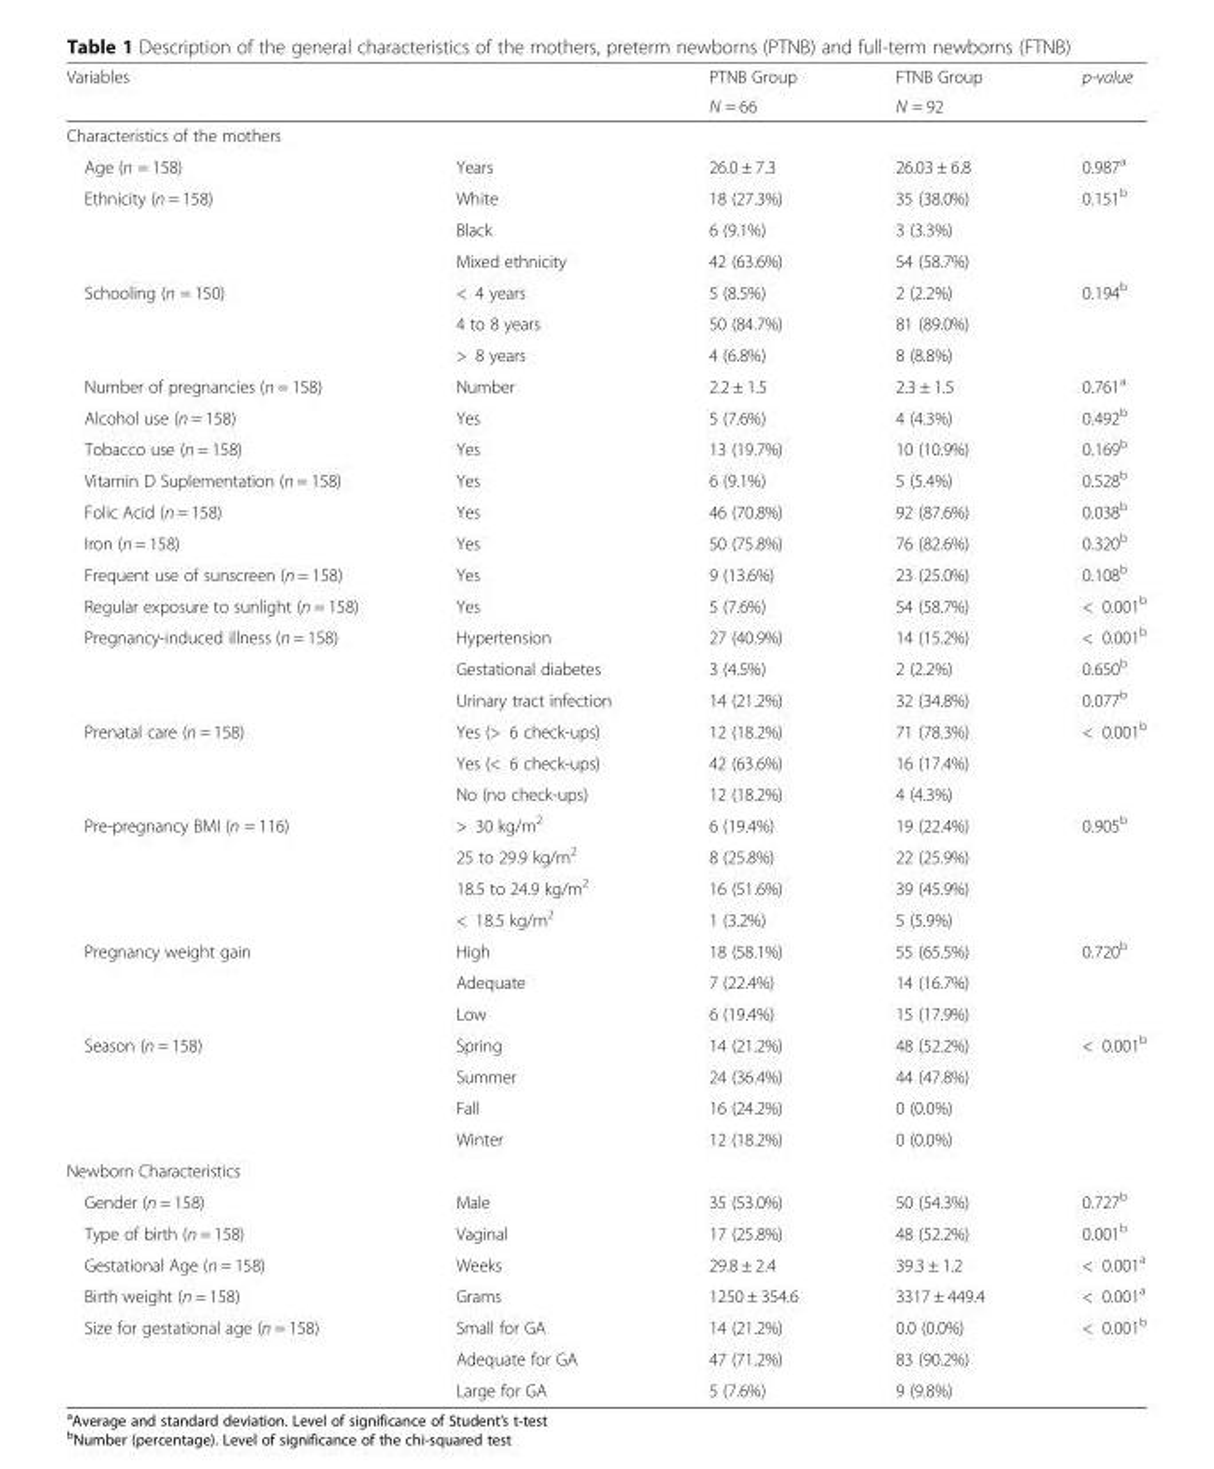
<table><thead><tr><td rowspan="2" colspan="2">Variables</td><td rowspan="2">PTNB Group N = 66</td><td rowspan="2">FTNB Group N = 92</td><td rowspan="2">p-value</td></tr><tr></tr><tr><td colspan="5">Characteristics of the mothers</td></tr><tr><td>Age (n = 158)</td><td>Years</td><td>26.0 ± 7.3</td><td>26.03 ± 6.8</td><td>0.987<sup>a</sup></td></tr></thead><tbody><tr><td rowspan="3">Ethnicity (n = 158)</td><td>White</td><td>18 (27.3%)</td><td>35 (38.0%)</td><td>0.151<sup>b</sup></td></tr><tr><td>Black</td><td>6 (9.1%)</td><td>3 (3.3%)</td><td></td></tr><tr><td>Mixed ethnicity</td><td>42 (63.6%)</td><td>54 (58.7%)</td><td></td></tr><tr><td rowspan="3">Schooling (n = 150)</td><td>&lt; 4 years</td><td>5 (8.5%)</td><td>2 (2.2%)</td><td>0.194<sup>b</sup></td></tr><tr><td>4 to 8 years</td><td>50 (84.7%)</td><td>81 (89.0%)</td><td></td></tr><tr><td>&gt; 8 years</td><td>4 (6.8%)</td><td>8 (8.8%)</td><td></td></tr><tr><td>Number of pregnancies (n = 158)</td><td>Number</td><td>2.2 ± 1.5</td><td>2.3 ± 1.5</td><td>0.761<sup>a</sup></td></tr><tr><td>Alcohol use (n = 158)</td><td>Yes</td><td>5 (7.6%)</td><td>4 (4.3%)</td><td>0.492<sup>b</sup></td></tr><tr><td>Tobacco use (n = 158)</td><td>Yes</td><td>13 (19.7%)</td><td>10 (10.9%)</td><td>0.169<sup>b</sup></td></tr><tr><td>Vitamin D Suplementation (n = 158)</td><td>Yes</td><td>6 (9.1%)</td><td>5 (5.4%)</td><td>0.528<sup>b</sup></td></tr><tr><td>Folic Acid (n = 158)</td><td>Yes</td><td>46 (70.8%)</td><td>92 (87.6%)</td><td>0.038<sup>b</sup></td></tr><tr><td>Iron (n = 158)</td><td>Yes</td><td>50 (75.8%)</td><td>76 (82.6%)</td><td>0.320<sup>b</sup></td></tr><tr><td>Frequent use of sunscreen (n = 158)</td><td>Yes</td><td>9 (13.6%)</td><td>23 (25.0%)</td><td>0.108<sup>b</sup></td></tr><tr><td>Regular exposure to sunlight (n = 158)</td><td>Yes</td><td>5 (7.6%)</td><td>54 (58.7%)</td><td>&lt; 0.001<sup>b</sup></td></tr><tr><td rowspan="3">Pregnancy-induced illness (n = 158)</td><td>Hypertension</td><td>27 (40.9%)</td><td>14 (15.2%)</td><td>&lt; 0.001<sup>b</sup></td></tr><tr><td>Gestational diabetes</td><td>3 (4.5%)</td><td>2 (2.2%)</td><td>0.650<sup>b</sup></td></tr><tr><td>Urinary tract infection</td><td>14 (21.2%)</td><td>32 (34.8%)</td><td>0.077<sup>b</sup></td></tr><tr><td rowspan="3">Prenatal care (n = 158)</td><td>Yes (&gt; 6 check-ups)</td><td>12 (18.2%)</td><td>71 (78.3%)</td><td>&lt; 0.001<sup>b</sup></td></tr><tr><td>Yes (&lt; 6 check-ups)</td><td>42 (63.6%)</td><td>16 (17.4%)</td><td></td></tr><tr><td>No (no check-ups)</td><td>12 (18.2%)</td><td>4 (4.3%)</td><td></td></tr><tr><td rowspan="4">Pre-pregnancy BMI (n = 116)</td><td>&gt; 30 kg/m<sup>2</sup></td><td>6 (19.4%)</td><td>19 (22.4%)</td><td>0.905<sup>b</sup></td></tr><tr><td>25 to 29.9 kg/m<sup>2</sup></td><td>8 (25.8%)</td><td>22 (25.9%)</td><td></td></tr><tr><td>18.5 to 24.9 kg/m<sup>2</sup></td><td>16 (51.6%)</td><td>39 (45.9%)</td><td></td></tr><tr><td>&lt; 18.5 kg/m<sup>2</sup></td><td>1 (3.2%)</td><td>5 (5.9%)</td><td></td></tr><tr><td rowspan="3">Pregnancy weight gain</td><td>High</td><td>18 (58.1%)</td><td>55 (65.5%)</td><td>0.720<sup>b</sup></td></tr><tr><td>Adequate</td><td>7 (22.4%)</td><td>14 (16.7%)</td><td></td></tr><tr><td>Low</td><td>6 (19.4%)</td><td>15 (17.9%)</td><td></td></tr><tr><td rowspan="4">Season (n = 158)</td><td>Spring</td><td>14 (21.2%)</td><td>48 (52.2%)</td><td>&lt; 0.001<sup>b</sup></td></tr><tr><td>Summer</td><td>24 (36.4%)</td><td>44 (47.8%)</td><td></td></tr><tr><td>Fall</td><td>16 (24.2%)</td><td>0 (0.0%)</td><td></td></tr><tr><td>Winter</td><td>12 (18.2%)</td><td>0 (0.0%)</td><td></td></tr><tr><td colspan="5">Newborn Characteristics</td></tr><tr><td>Gender (n = 158)</td><td>Male</td><td>35 (53.0%)</td><td>50 (54.3%)</td><td>0.727<sup>b</sup></td></tr><tr><td>Type of birth (n = 158)</td><td>Vaginal</td><td>17 (25.8%)</td><td>48 (52.2%)</td><td>0.001<sup>b</sup></td></tr><tr><td>Gestational Age (n = 158)</td><td>Weeks</td><td>29.8 ± 2.4</td><td>39.3 ± 1.2</td><td>&lt; 0.001<sup>a</sup></td></tr><tr><td>Birth weight (n = 158)</td><td>Grams</td><td>1250 ± 354.6</td><td>3317 ± 449.4</td><td>&lt; 0.001<sup>a</sup></td></tr><tr><td rowspan="3">Size for gestational age (n = 158)</td><td>Small for GA</td><td>14 (21.2%)</td><td>0.0 (0.0%)</td><td>&lt; 0.001<sup>b</sup></td></tr><tr><td>Adequate for GA</td><td>47 (71.2%)</td><td>83 (90.2%)</td><td></td></tr><tr><td>Large for GA</td><td>5 (7.6%)</td><td>9 (9.8%)</td><td></td></tr></tbody></table>